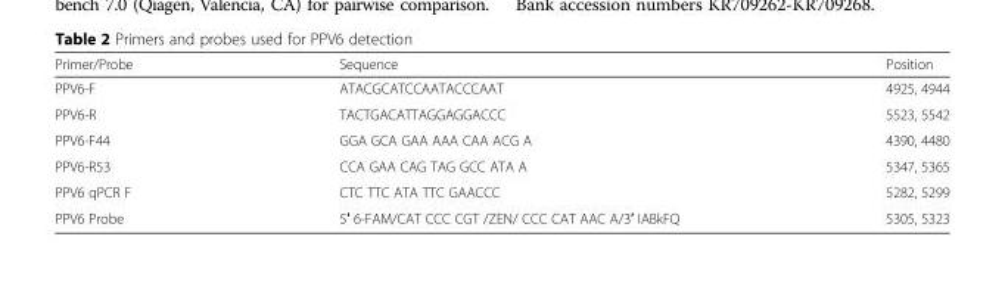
<table><thead><tr><td>Primer/Probe</td><td>Sequence</td><td>Position</td></tr></thead><tbody><tr><td>PPV6-F</td><td>ATACGCATCCAATACCCAAT</td><td>4925, 4944</td></tr><tr><td>PPV6-R</td><td>TACTGACATTAGGAGGACCC</td><td>5523, 5542</td></tr><tr><td>PPV6-F44</td><td>GGA GCA GAA AAA CAA ACG A</td><td>4390, 4480</td></tr><tr><td>PPV6-R53</td><td>CCA GAA CAG TAG GCC ATA A</td><td>5347, 5365</td></tr><tr><td>PPV6 qPCR F</td><td>CTC TTC ATA TTC GAACCC</td><td>5282, 5299</td></tr><tr><td>PPV6 Probe</td><td>5′ 6-FAM/CAT CCC CGT /ZEN/ CCC CAT AAC A/3′ IABkFQ</td><td>5305, 5323</td></tr></tbody></table>